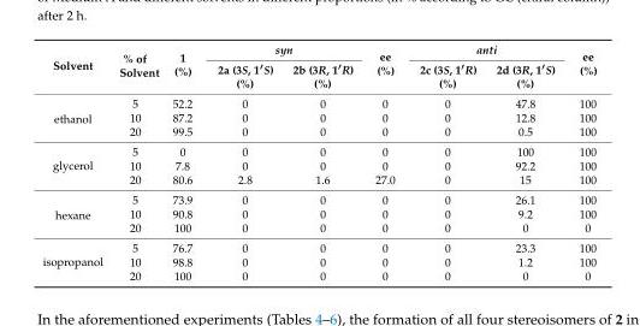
<table><thead><tr><td rowspan="2">Solvent</td><td rowspan="2">% of Solvent</td><td rowspan="2">1 (%)</td><td colspan="2">syn</td><td rowspan="2">ee (%)</td><td colspan="2">anti</td><td rowspan="2">ee (%)</td></tr><tr><td>2a (3S, 1′S) (%)</td><td>2b (3R, 1′R) (%)</td><td>2c (3S, 1′R) (%)</td><td>2d (3R, 1′S) (%)</td></tr></thead><tbody><tr><td rowspan="3">ethanol</td><td>5</td><td>52.2</td><td>0</td><td>0</td><td>0</td><td>0</td><td>47.8</td><td>100</td></tr><tr><td>10</td><td>87.2</td><td>0</td><td>0</td><td>0</td><td>0</td><td>12.8</td><td>100</td></tr><tr><td>20</td><td>99.5</td><td>0</td><td>0</td><td>0</td><td>0</td><td>0.5</td><td>100</td></tr><tr><td rowspan="3">glycerol</td><td>5</td><td>0</td><td>0</td><td>0</td><td>0</td><td>0</td><td>100</td><td>100</td></tr><tr><td>10</td><td>7.8</td><td>0</td><td>0</td><td>0</td><td>0</td><td>92.2</td><td>100</td></tr><tr><td>20</td><td>80.6</td><td>2.8</td><td>1.6</td><td>27.0</td><td>0</td><td>15</td><td>100</td></tr><tr><td rowspan="3">hexane</td><td>5</td><td>73.9</td><td>0</td><td>0</td><td>0</td><td>0</td><td>26.1</td><td>100</td></tr><tr><td>10</td><td>90.8</td><td>0</td><td>0</td><td>0</td><td>0</td><td>9.2</td><td>100</td></tr><tr><td>20</td><td>100</td><td>0</td><td>0</td><td>0</td><td>0</td><td>0</td><td>0</td></tr><tr><td rowspan="3">isopropanol</td><td>5</td><td>76.7</td><td>0</td><td>0</td><td>0</td><td>0</td><td>23.3</td><td>100</td></tr><tr><td>10</td><td>98.8</td><td>0</td><td>0</td><td>0</td><td>0</td><td>1.2</td><td>100</td></tr><tr><td>20</td><td>100</td><td>0</td><td>0</td><td>0</td><td>0</td><td>0</td><td>0</td></tr></tbody></table>